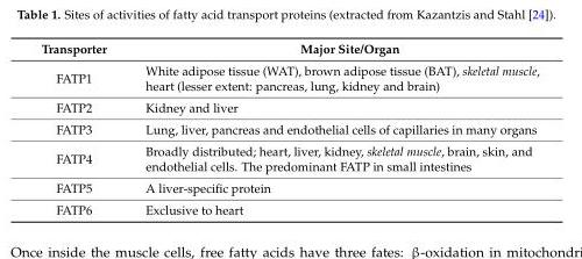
<table><thead><tr><td>Transporter</td><td>Major Site/Organ</td></tr></thead><tbody><tr><td>FATP1</td><td>White adipose tissue (WAT), brown adipose tissue (BAT), skeletal muscle, heart (lesser extent: pancreas, lung, kidney and brain)</td></tr><tr><td>FATP2</td><td>Kidney and liver</td></tr><tr><td>FATP3</td><td>Lung, liver, pancreas and endothelial cells of capillaries in many organs</td></tr><tr><td>FATP4</td><td>Broadly distributed; heart, liver, kidney, skeletal muscle, brain, skin, and endothelial cells. The predominant FATP in small intestines</td></tr><tr><td>FATP5</td><td>A liver-specific protein</td></tr><tr><td>FATP6</td><td>Exclusive to heart</td></tr></tbody></table>